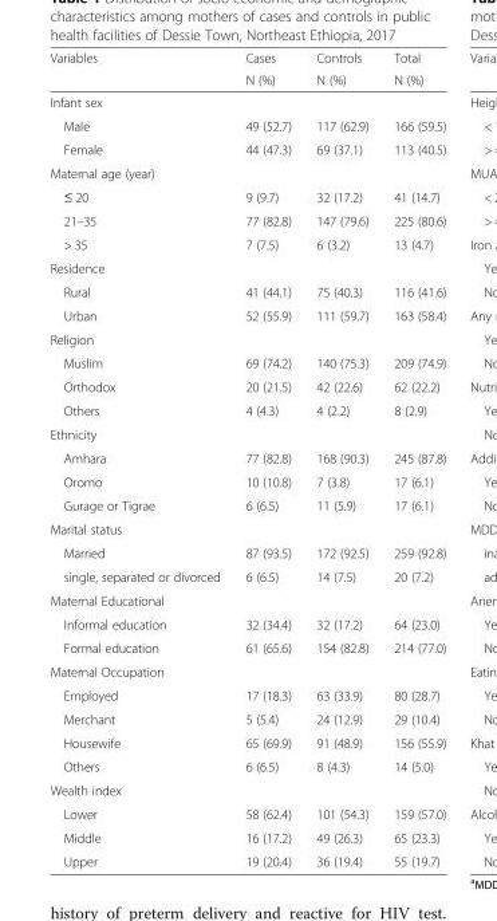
<table><thead><tr><td rowspan="2">Variables</td><td rowspan="2">Cases N (%)</td><td rowspan="2">Controls N (%)</td><td rowspan="2">Total N (%)</td></tr><tr></tr></thead><tbody><tr><td colspan="4">Infant sex</td></tr><tr><td>Male</td><td>49 (52.7)</td><td>117 (62.9)</td><td>166 (59.5)</td></tr><tr><td>Female</td><td>44 (47.3)</td><td>69 (37.1)</td><td>113 (40.5)</td></tr><tr><td colspan="4">Maternal age (year)</td></tr><tr><td>≤ 20</td><td>9 (9.7)</td><td>32 (17.2)</td><td>41 (14.7)</td></tr><tr><td>21–35</td><td>77 (82.8)</td><td>147 (79.6)</td><td>225 (80.6)</td></tr><tr><td>&gt; 35</td><td>7 (7.5)</td><td>6 (3.2)</td><td>13 (4.7)</td></tr><tr><td colspan="4">Residence</td></tr><tr><td>Rural</td><td>41 (44.1)</td><td>75 (40.3)</td><td>116 (41.6)</td></tr><tr><td>Urban</td><td>52 (55.9)</td><td>111 (59.7)</td><td>163 (58.4)</td></tr><tr><td colspan="4">Religion</td></tr><tr><td>Muslim</td><td>69 (74.2)</td><td>140 (75.3)</td><td>209 (74.9)</td></tr><tr><td>Orthodox</td><td>20 (21.5)</td><td>42 (22.6)</td><td>62 (22.2)</td></tr><tr><td>Others</td><td>4 (4.3)</td><td>4 (2.2)</td><td>8 (2.9)</td></tr><tr><td colspan="4">Ethnicity</td></tr><tr><td>Amhara</td><td>77 (82.8)</td><td>168 (90.3)</td><td>245 (87.8)</td></tr><tr><td>Oromo</td><td>10 (10.8)</td><td>7 (3.8)</td><td>17 (6.1)</td></tr><tr><td>Gurage or Tigrae</td><td>6 (6.5)</td><td>11 (5.9)</td><td>17 (6.1)</td></tr><tr><td colspan="4">Marital status</td></tr><tr><td>Married</td><td>87 (93.5)</td><td>172 (92.5)</td><td>259 (92.8)</td></tr><tr><td>single, separated or divorced</td><td>6 (6.5)</td><td>14 (7.5)</td><td>20 (7.2)</td></tr><tr><td colspan="4">Maternal Educational</td></tr><tr><td>Informal education</td><td>32 (34.4)</td><td>32 (17.2)</td><td>64 (23.0)</td></tr><tr><td>Formal education</td><td>61 (65.6)</td><td>154 (82.8)</td><td>214 (77.0)</td></tr><tr><td colspan="4">Maternal Occupation</td></tr><tr><td>Employed</td><td>17 (18.3)</td><td>63 (33.9)</td><td>80 (28.7)</td></tr><tr><td>Merchant</td><td>5 (5.4)</td><td>24 (12.9)</td><td>29 (10.4)</td></tr><tr><td>Housewife</td><td>65 (69.9)</td><td>91 (48.9)</td><td>156 (55.9)</td></tr><tr><td>Others</td><td>6 (6.5)</td><td>8 (4.3)</td><td>14 (5.0)</td></tr><tr><td colspan="4">Wealth index</td></tr><tr><td>Lower</td><td>58 (62.4)</td><td>101 (54.3)</td><td>159 (57.0)</td></tr><tr><td>Middle</td><td>16 (17.2)</td><td>49 (26.3)</td><td>65 (23.3)</td></tr><tr><td>Upper</td><td>19 (20.4)</td><td>36 (19.4)</td><td>55 (19.7)</td></tr></tbody></table>